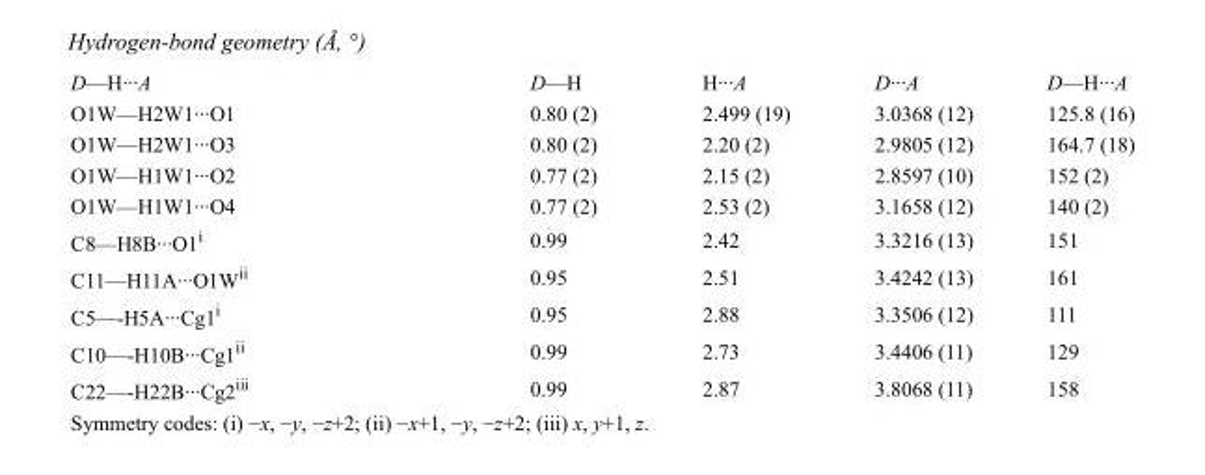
<table><tbody><tr><td>D—H···A</td><td>D—H</td><td>H···A</td><td>D···A</td><td>D—H···A</td></tr><tr><td>O1W—H2W1···O1</td><td>0.80 (2)</td><td>2.499 (19)</td><td>3.0368 (12)</td><td>125.8 (16)</td></tr><tr><td>O1W—H2W1···O3</td><td>0.80 (2)</td><td>2.20 (2)</td><td>2.9805 (12)</td><td>164.7 (18)</td></tr><tr><td>O1W—H1W1···O2</td><td>0.77 (2)</td><td>2.15 (2)</td><td>2.8597 (10)</td><td>152 (2)</td></tr><tr><td>O1W—H1W1···O4</td><td>0.77 (2)</td><td>2.53 (2)</td><td>3.1658 (12)</td><td>140 (2)</td></tr><tr><td>C8—H8B···O1<sup>i</sup></td><td>0.99</td><td>2.42</td><td>3.3216 (13)</td><td>151</td></tr><tr><td>C11—H11A···O1W<sup>ii</sup></td><td>0.95</td><td>2.51</td><td>3.4242 (13)</td><td>161</td></tr><tr><td>C5—-H5A···Cg1<sup>i</sup></td><td>0.95</td><td>2.88</td><td>3.3506 (12)</td><td>111</td></tr><tr><td>C10—-H10B···Cg1<sup>ii</sup></td><td>0.99</td><td>2.73</td><td>3.4406 (11)</td><td>129</td></tr><tr><td>C22—-H22B···Cg2<sup>iii</sup></td><td>0.99</td><td>2.87</td><td>3.8068 (11)</td><td>158</td></tr></tbody></table>